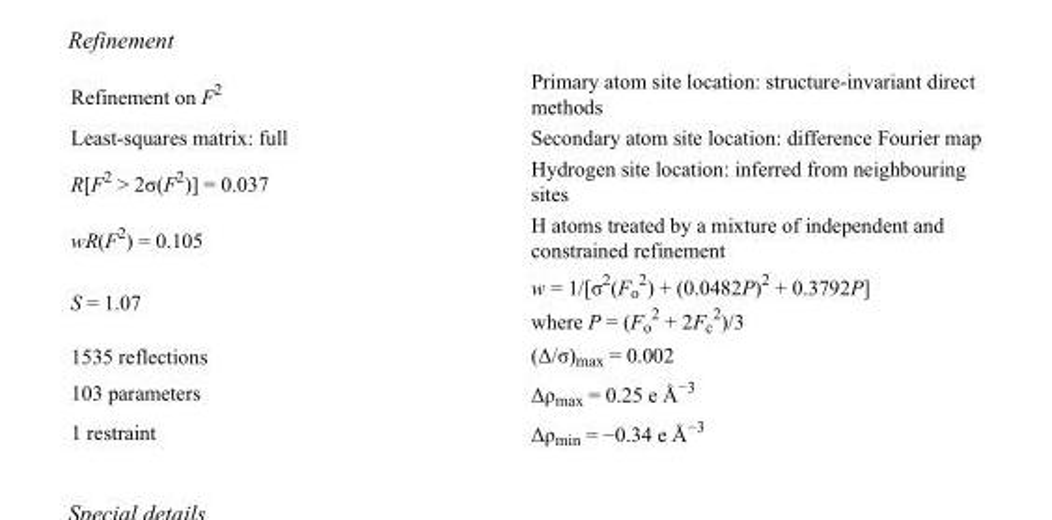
<table><tbody><tr><td>Refinement on F<sup>2</sup></td><td>Primary atom site location: structure-invariant direct methods</td></tr><tr><td>Least-squares matrix: full</td><td>Secondary atom site location: difference Fourier map</td></tr><tr><td>R[F<sup>2</sup> &gt; 2σ(F<sup>2</sup>)] = 0.037</td><td>Hydrogen site location: inferred from neighbouring sites</td></tr><tr><td>wR(F<sup>2</sup>) = 0.105</td><td>H atoms treated by a mixture of independent and constrained refinement</td></tr><tr><td>S = 1.07</td><td>w = 1/[σ<sup>2</sup>(F<sub>o</sub> <sup>2</sup>) + (0.0482P)<sup>2</sup> + 0.3792P] where P = (F<sub>o</sub> <sup>2</sup> + 2F<sub>c</sub> <sup>2</sup>)/3</td></tr><tr><td>1535 reflections</td><td>(Δ/σ)<sub>max</sub> = 0.002</td></tr><tr><td>103 parameters</td><td>Δρ<sub>max</sub> = 0.25 e Å<sup>−3</sup></td></tr><tr><td>1 restraint</td><td>Δρ<sub>min</sub> = −0.34 e Å<sup>−3</sup></td></tr></tbody></table>